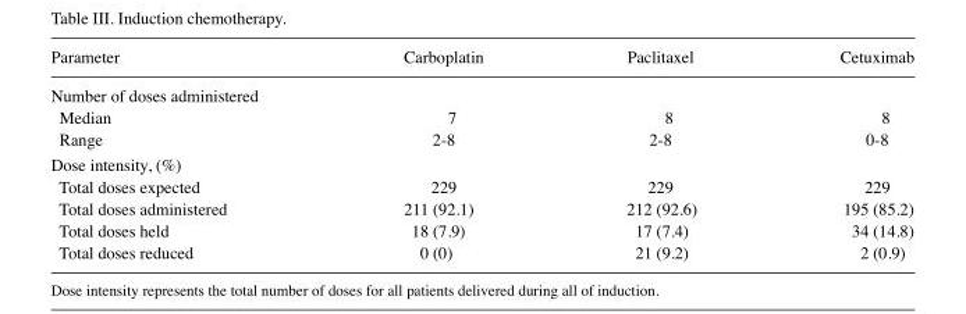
<table><thead><tr><td>Parameter</td><td>Carboplatin</td><td>Paclitaxel</td><td>Cetuximab</td></tr></thead><tbody><tr><td colspan="4">Number of doses administered</td></tr><tr><td>Median</td><td>7</td><td>8</td><td>8</td></tr><tr><td>Range</td><td>2-8</td><td>2-8</td><td>0-8</td></tr><tr><td colspan="4">Dose intensity, (%)</td></tr><tr><td>Total doses expected</td><td>229</td><td>229</td><td>229</td></tr><tr><td>Total doses administered</td><td>211 (92.1)</td><td>212 (92.6)</td><td>195 (85.2)</td></tr><tr><td>Total doses held</td><td>18 (7.9)</td><td>17 (7.4)</td><td>34 (14.8)</td></tr><tr><td>Total doses reduced</td><td>0 (0)</td><td>21 (9.2)</td><td>2 (0.9)</td></tr></tbody></table>